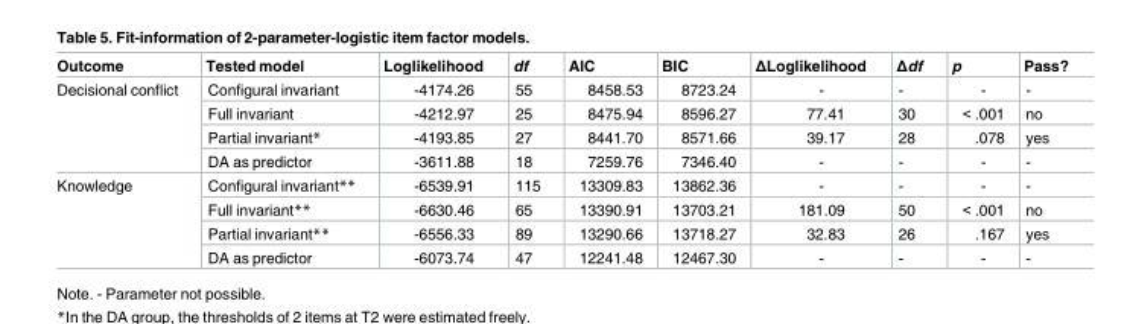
<table><thead><tr><td>Outcome</td><td>Tested model</td><td>Loglikelihood</td><td>df</td><td>AIC</td><td>BIC</td><td>ΔLoglikelihood</td><td>Δdf</td><td>p</td><td>Pass?</td></tr></thead><tbody><tr><td rowspan="4">Decisional conflict</td><td>Configural invariant</td><td>-4174.26</td><td>55</td><td>8458.53</td><td>8723.24</td><td>-</td><td>-</td><td>-</td><td>-</td></tr><tr><td>Full invariant</td><td>-4212.97</td><td>25</td><td>8475.94</td><td>8596.27</td><td>77.41</td><td>30</td><td>&lt; .001</td><td>no</td></tr><tr><td>Partial invariant*</td><td>-4193.85</td><td>27</td><td>8441.70</td><td>8571.66</td><td>39.17</td><td>28</td><td>.078</td><td>yes</td></tr><tr><td>DA as predictor</td><td>-3611.88</td><td>18</td><td>7259.76</td><td>7346.40</td><td>-</td><td>-</td><td>-</td><td>-</td></tr><tr><td rowspan="4">Knowledge</td><td>Configural invariant**</td><td>-6539.91</td><td>115</td><td>13309.83</td><td>13862.36</td><td>-</td><td>-</td><td>-</td><td>-</td></tr><tr><td>Full invariant**</td><td>-6630.46</td><td>65</td><td>13390.91</td><td>13703.21</td><td>181.09</td><td>50</td><td>&lt; .001</td><td>no</td></tr><tr><td>Partial invariant**</td><td>-6556.33</td><td>89</td><td>13290.66</td><td>13718.27</td><td>32.83</td><td>26</td><td>.167</td><td>yes</td></tr><tr><td>DA as predictor</td><td>-6073.74</td><td>47</td><td>12241.48</td><td>12467.30</td><td>-</td><td>-</td><td>-</td><td>-</td></tr></tbody></table>